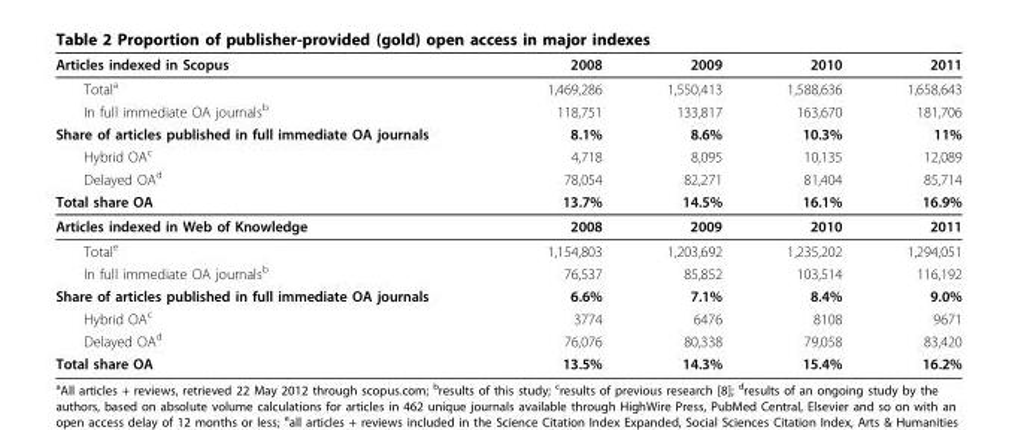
<table><thead><tr><td>Articles indexed in Scopus</td><td>2008</td><td>2009</td><td>2010</td><td>2011</td></tr></thead><tbody><tr><td>Total<sup>a</sup></td><td>1,469,286</td><td>1,550,413</td><td>1,588,636</td><td>1,658,643</td></tr><tr><td>In full immediate OA journals<sup>b</sup></td><td>118,751</td><td>133,817</td><td>163,670</td><td>181,706</td></tr><tr><td>Share of articles published in full immediate OA journals</td><td>8.1%</td><td>8.6%</td><td>10.3%</td><td>11%</td></tr><tr><td>Hybrid OA<sup>c</sup></td><td>4,718</td><td>8,095</td><td>10,135</td><td>12,089</td></tr><tr><td>Delayed OA<sup>d</sup></td><td>78,054</td><td>82,271</td><td>81,404</td><td>85,714</td></tr><tr><td>Total share OA</td><td>13.7%</td><td>14.5%</td><td>16.1%</td><td>16.9%</td></tr><tr><td>Articles indexed in Web of Knowledge</td><td>2008</td><td>2009</td><td>2010</td><td>2011</td></tr><tr><td>Total<sup>e</sup></td><td>1,154,803</td><td>1,203,692</td><td>1,235,202</td><td>1,294,051</td></tr><tr><td>In full immediate OA journals<sup>b</sup></td><td>76,537</td><td>85,852</td><td>103,514</td><td>116,192</td></tr><tr><td>Share of articles published in full immediate OA journals</td><td>6.6%</td><td>7.1%</td><td>8.4%</td><td>9.0%</td></tr><tr><td>Hybrid OA<sup>c</sup></td><td>3774</td><td>6476</td><td>8108</td><td>9671</td></tr><tr><td>Delayed OA<sup>d</sup></td><td>76,076</td><td>80,338</td><td>79,058</td><td>83,420</td></tr><tr><td>Total share OA</td><td>13.5%</td><td>14.3%</td><td>15.4%</td><td>16.2%</td></tr></tbody></table>